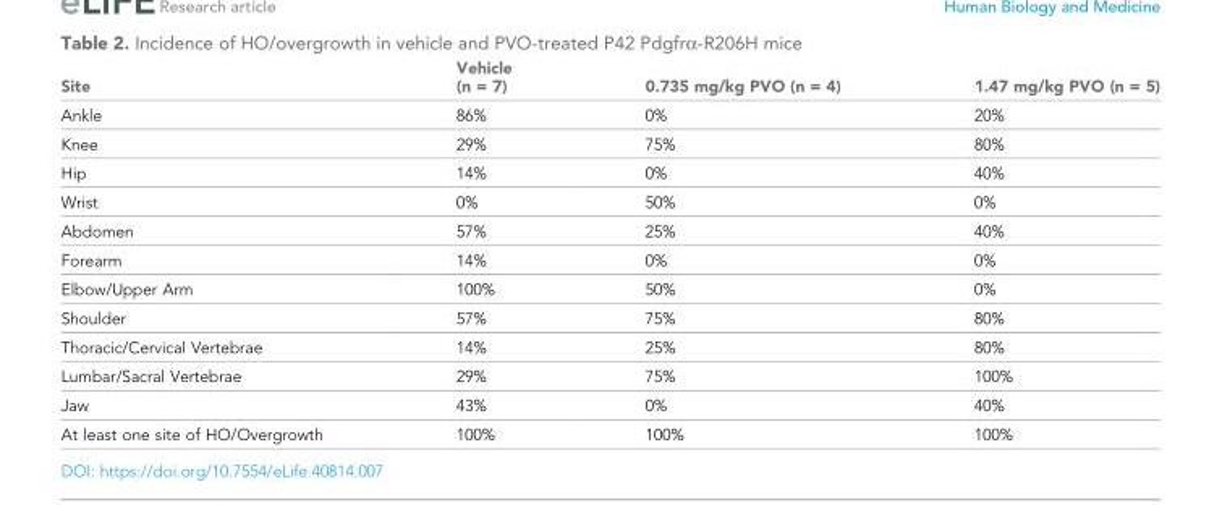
<table><thead><tr><td>Site</td><td>Vehicle (n = 7)</td><td>0.735 mg/kg PVO (n = 4)</td><td>1.47 mg/kg PVO (n = 5)</td></tr></thead><tbody><tr><td>Ankle</td><td>86%</td><td>0%</td><td>20%</td></tr><tr><td>Knee</td><td>29%</td><td>75%</td><td>80%</td></tr><tr><td>Hip</td><td>14%</td><td>0%</td><td>40%</td></tr><tr><td>Wrist</td><td>0%</td><td>50%</td><td>0%</td></tr><tr><td>Abdomen</td><td>57%</td><td>25%</td><td>40%</td></tr><tr><td>Forearm</td><td>14%</td><td>0%</td><td>0%</td></tr><tr><td>Elbow/Upper Arm</td><td>100%</td><td>50%</td><td>0%</td></tr><tr><td>Shoulder</td><td>57%</td><td>75%</td><td>80%</td></tr><tr><td>Thoracic/Cervical Vertebrae</td><td>14%</td><td>25%</td><td>80%</td></tr><tr><td>Lumbar/Sacral Vertebrae</td><td>29%</td><td>75%</td><td>100%</td></tr><tr><td>Jaw</td><td>43%</td><td>0%</td><td>40%</td></tr><tr><td>At least one site of HO/Overgrowth</td><td>100%</td><td>100%</td><td>100%</td></tr></tbody></table>